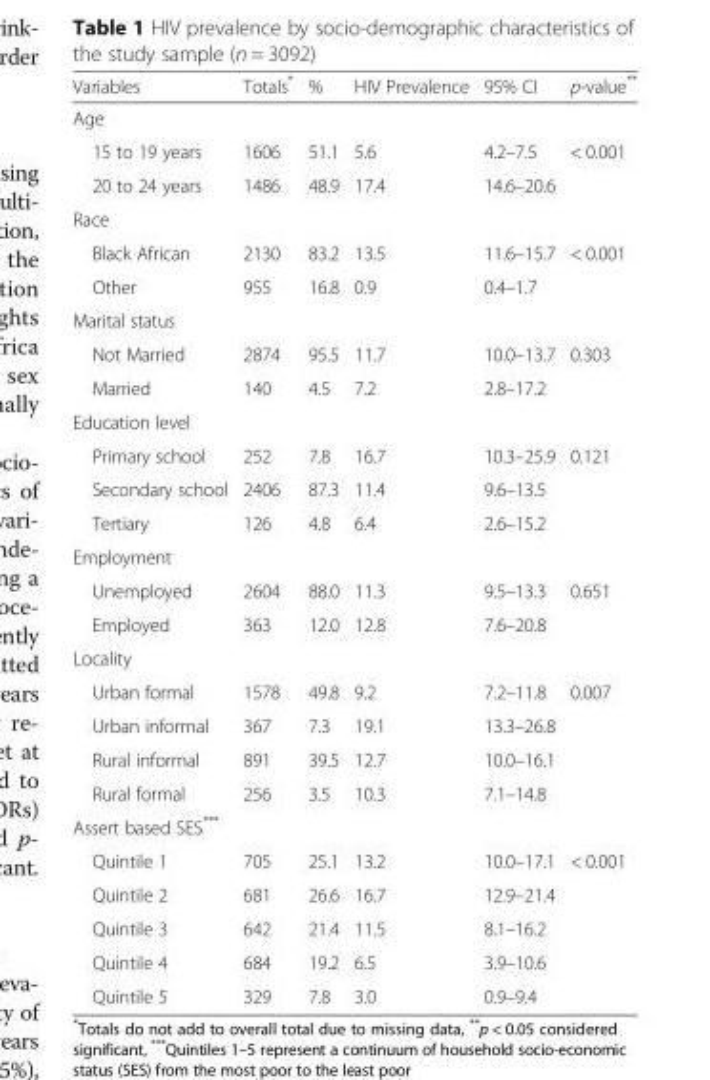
<table><thead><tr><td>Variables</td><td>Totals*</td><td>%</td><td>HIV Prevalence</td><td>95% CI</td><td>p-value**</td></tr></thead><tbody><tr><td colspan="6">Age</td></tr><tr><td>15 to 19 years</td><td>1606</td><td>51.1</td><td>5.6</td><td>4.2–7.5</td><td>&lt; 0.001</td></tr><tr><td>20 to 24 years</td><td>1486</td><td>48.9</td><td>17.4</td><td>14.6–20.6</td><td></td></tr><tr><td colspan="6">Race</td></tr><tr><td>Black African</td><td>2130</td><td>83.2</td><td>13.5</td><td>11.6–15.7</td><td>&lt; 0.001</td></tr><tr><td>Other</td><td>955</td><td>16.8</td><td>0.9</td><td>0.4–1.7</td><td></td></tr><tr><td colspan="6">Marital status</td></tr><tr><td>Not Married</td><td>2874</td><td>95.5</td><td>11.7</td><td>10.0–13.7</td><td>0.303</td></tr><tr><td>Married</td><td>140</td><td>4.5</td><td>7.2</td><td>2.8–17.2</td><td></td></tr><tr><td colspan="6">Education level</td></tr><tr><td>Primary school</td><td>252</td><td>7.8</td><td>16.7</td><td>10.3–25.9</td><td>0.121</td></tr><tr><td>Secondary school</td><td>2406</td><td>87.3</td><td>11.4</td><td>9.6–13.5</td><td></td></tr><tr><td>Tertiary</td><td>126</td><td>4.8</td><td>6.4</td><td>2.6–15.2</td><td></td></tr><tr><td colspan="6">Employment</td></tr><tr><td>Unemployed</td><td>2604</td><td>88.0</td><td>11.3</td><td>9.5–13.3</td><td>0.651</td></tr><tr><td>Employed</td><td>363</td><td>12.0</td><td>12.8</td><td>7.6–20.8</td><td></td></tr><tr><td colspan="6">Locality</td></tr><tr><td>Urban formal</td><td>1578</td><td>49.8</td><td>9.2</td><td>7.2–11.8</td><td>0.007</td></tr><tr><td>Urban informal</td><td>367</td><td>7.3</td><td>19.1</td><td>13.3–26.8</td><td></td></tr><tr><td>Rural informal</td><td>891</td><td>39.5</td><td>12.7</td><td>10.0–16.1</td><td></td></tr><tr><td>Rural formal</td><td>256</td><td>3.5</td><td>10.3</td><td>7.1–14.8</td><td></td></tr><tr><td colspan="6">Assert based SES***</td></tr><tr><td>Quintile 1</td><td>705</td><td>25.1</td><td>13.2</td><td>10.0–17.1</td><td>&lt; 0.001</td></tr><tr><td>Quintile 2</td><td>681</td><td>26.6</td><td>16.7</td><td>12.9–21.4</td><td></td></tr><tr><td>Quintile 3</td><td>642</td><td>21.4</td><td>11.5</td><td>8.1–16.2</td><td></td></tr><tr><td>Quintile 4</td><td>684</td><td>19.2</td><td>6.5</td><td>3.9–10.6</td><td></td></tr><tr><td>Quintile 5</td><td>329</td><td>7.8</td><td>3.0</td><td>0.9–9.4</td><td></td></tr></tbody></table>